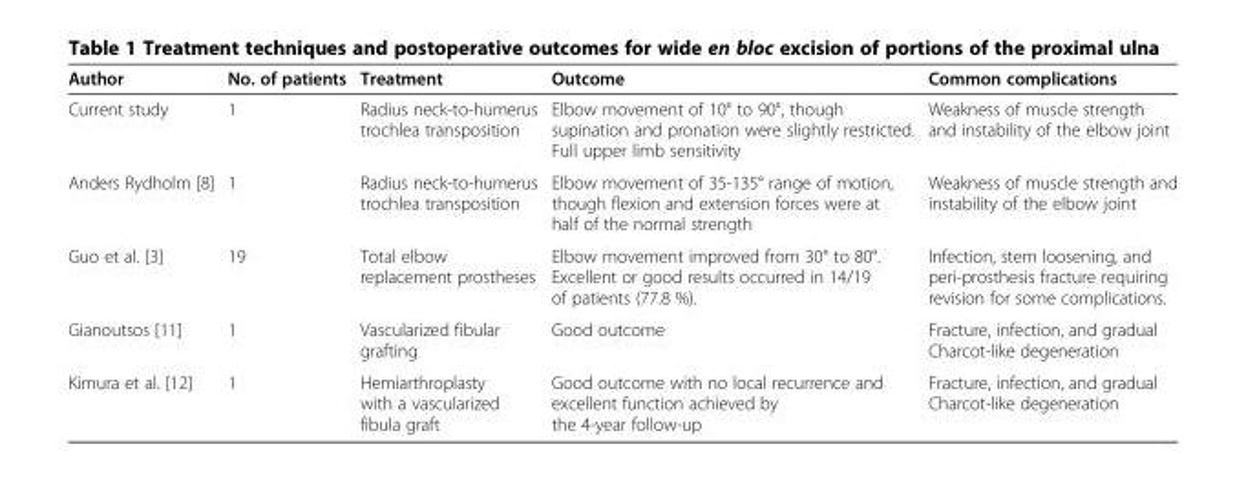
<table><thead><tr><td>Author</td><td>No. of patients</td><td>Treatment</td><td>Outcome</td><td>Common complications</td></tr></thead><tbody><tr><td>Current study</td><td>1</td><td>Radius neck-to-humerus trochlea transposition</td><td>Elbow movement of 10° to 90°, though supination and pronation were slightly restricted. Full upper limb sensitivity</td><td>Weakness of muscle strength and instability of the elbow joint</td></tr><tr><td>Anders Rydholm [8]</td><td>1</td><td>Radius neck-to-humerus trochlea transposition</td><td>Elbow movement of 35-135° range of motion, though flexion and extension forces were at half of the normal strength</td><td>Weakness of muscle strength and instability of the elbow joint</td></tr><tr><td>Guo et al. [3]</td><td>19</td><td>Total elbow replacement prostheses</td><td>Elbow movement improved from 30° to 80°. Excellent or good results occurred in 14/19 of patients (77.8 %).</td><td>Infection, stem loosening, and peri-prosthesis fracture requiring revision for some complications.</td></tr><tr><td>Gianoutsos [11]</td><td>1</td><td>Vascularized fibular grafting</td><td>Good outcome</td><td>Fracture, infection, and gradual Charcot-like degeneration</td></tr><tr><td>Kimura et al. [12]</td><td>1</td><td>Hemiarthroplasty with a vascularized fibula graft</td><td>Good outcome with no local recurrence and excellent function achieved by the 4-year follow-up</td><td>Fracture, infection, and gradual Charcot-like degeneration</td></tr></tbody></table>